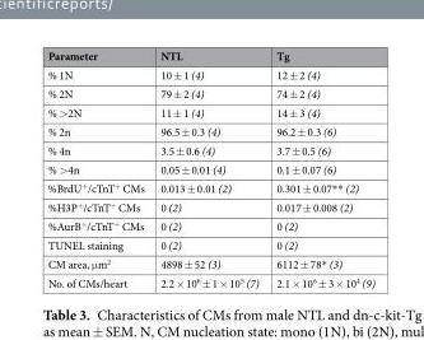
<table><thead><tr><td>Parameter</td><td>NTL</td><td>Tg</td></tr></thead><tbody><tr><td>% 1N</td><td>10 ± 1 (4)</td><td>12 ± 2 (4)</td></tr><tr><td>% 2N</td><td>79 ± 2 (4)</td><td>74 ± 2 (4)</td></tr><tr><td>% &gt;2N</td><td>11 ± 1 (4)</td><td>14 ± 3 (4)</td></tr><tr><td>% 2n</td><td>96.5 ± 0.3 (4)</td><td>96.2 ± 0.3 (6)</td></tr><tr><td>% 4n</td><td>3.5 ± 0.6 (4)</td><td>3.7 ± 0.5 (6)</td></tr><tr><td>% &gt;4n</td><td>0.05 ± 0.01 (4)</td><td>0.1 ± 0.07 (6)</td></tr><tr><td>%BrdU<sup>+</sup>/cTnT<sup>+</sup> CMs</td><td>0.013 ± 0.01 (2)</td><td>0.301 ± 0.07** (2)</td></tr><tr><td>%H3P<sup>+</sup>/cTnT<sup>+</sup> CMs</td><td>0 (2)</td><td>0.017 ± 0.008 (2)</td></tr><tr><td>%AurB<sup>+</sup>/cTnT<sup>+</sup> CMs</td><td>0 (2)</td><td>0 (2)</td></tr><tr><td>TUNEL staining</td><td>0 (2)</td><td>0 (2)</td></tr><tr><td>CM area, μm<sup>2</sup></td><td>4898 ± 52 (3)</td><td>6112 ± 78* (3)</td></tr><tr><td>No. of CMs/heart</td><td>2.2 × 10<sup>6</sup> ± 1 × 10<sup>5</sup> (7)</td><td>2.1 × 10<sup>6</sup> ± 3 × 10<sup>4</sup> (9)</td></tr></tbody></table>